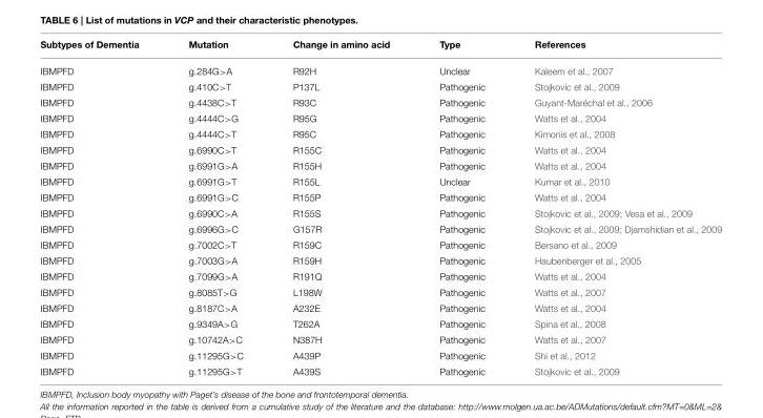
<table><thead><tr><td>Subtypes of Dementia</td><td>Mutation</td><td>Change in amino acid</td><td>Type</td><td>References</td></tr></thead><tbody><tr><td>IBMPFD</td><td>g.284G&gt;A</td><td>R92H</td><td>Unclear</td><td>Kaleem et al., 2007</td></tr><tr><td>IBMPFD</td><td>g.410C&gt;T</td><td>P137L</td><td>Pathogenic</td><td>Stojkovic et al., 2009</td></tr><tr><td>IBMPFD</td><td>g.4438C&gt;T</td><td>R93C</td><td>Pathogenic</td><td>Guyant-Maréchal et al., 2006</td></tr><tr><td>IBMPFD</td><td>g.4444C&gt;G</td><td>R95G</td><td>Pathogenic</td><td>Watts et al., 2004</td></tr><tr><td>IBMPFD</td><td>g.4444C&gt;T</td><td>R95C</td><td>Pathogenic</td><td>Kimonis et al., 2008</td></tr><tr><td>IBMPFD</td><td>g.6990C&gt;T</td><td>R155C</td><td>Pathogenic</td><td>Watts et al., 2004</td></tr><tr><td>IBMPFD</td><td>g.6991G&gt;A</td><td>R155H</td><td>Pathogenic</td><td>Watts et al., 2004</td></tr><tr><td>IBMPFD</td><td>g.6991G&gt;T</td><td>R155L</td><td>Unclear</td><td>Kumar et al., 2010</td></tr><tr><td>IBMPFD</td><td>g.6991G&gt;C</td><td>R155P</td><td>Pathogenic</td><td>Watts et al., 2004</td></tr><tr><td>IBMPFD</td><td>g.6990C&gt;A</td><td>R155S</td><td>Pathogenic</td><td>Stojkovic et al., 2009; Vesa et al., 2009</td></tr><tr><td>IBMPFD</td><td>g.6996G&gt;C</td><td>G157R</td><td>Pathogenic</td><td>Stojkovic et al., 2009; Djamshidian et al., 2009</td></tr><tr><td>IBMPFD</td><td>g.7002C&gt;T</td><td>R159C</td><td>Pathogenic</td><td>Bersano et al., 2009</td></tr><tr><td>IBMPFD</td><td>g.7003G&gt;A</td><td>R159H</td><td>Pathogenic</td><td>Haubenberger et al., 2005</td></tr><tr><td>IBMPFD</td><td>g.7099G&gt;A</td><td>R191Q</td><td>Pathogenic</td><td>Watts et al., 2004</td></tr><tr><td>IBMPFD</td><td>g.8085T&gt;G</td><td>L198W</td><td>Pathogenic</td><td>Watts et al., 2007</td></tr><tr><td>IBMPFD</td><td>g.8187C&gt;A</td><td>A232E</td><td>Pathogenic</td><td>Watts et al., 2004</td></tr><tr><td>IBMPFD</td><td>g.9349A&gt;G</td><td>T262A</td><td>Pathogenic</td><td>Spina et al., 2008</td></tr><tr><td>IBMPFD</td><td>g.10742A&gt;C</td><td>N387H</td><td>Pathogenic</td><td>Watts et al., 2007</td></tr><tr><td>IBMPFD</td><td>g.11295G&gt;C</td><td>A439P</td><td>Pathogenic</td><td>Shi et al., 2012</td></tr><tr><td>IBMPFD</td><td>g.11295G&gt;T</td><td>A439S</td><td>Pathogenic</td><td>Stojkovic et al., 2009</td></tr></tbody></table>